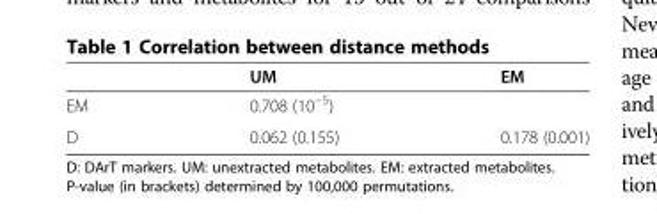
<table><thead><tr><td></td><td>UM</td><td>EM</td></tr></thead><tbody><tr><td>EM</td><td>0.708 (10<sup>−5</sup>)</td><td></td></tr><tr><td>D</td><td>0.062 (0.155)</td><td>0.178 (0.001)</td></tr></tbody></table>